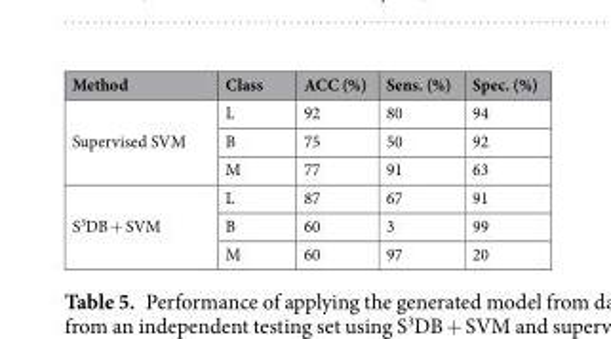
<table><thead><tr><td>Method</td><td>Class</td><td>ACC (%)</td><td>Sens. (%)</td><td>Spec. (%)</td></tr></thead><tbody><tr><td rowspan="3">Supervised SVM</td><td>L</td><td>92</td><td>80</td><td>94</td></tr><tr><td>B</td><td>75</td><td>50</td><td>92</td></tr><tr><td>M</td><td>77</td><td>91</td><td>63</td></tr><tr><td rowspan="3">S<sup>3</sup>DB + SVM</td><td>L</td><td>87</td><td>67</td><td>91</td></tr><tr><td>B</td><td>60</td><td>3</td><td>99</td></tr><tr><td>M</td><td>60</td><td>97</td><td>20</td></tr></tbody></table>